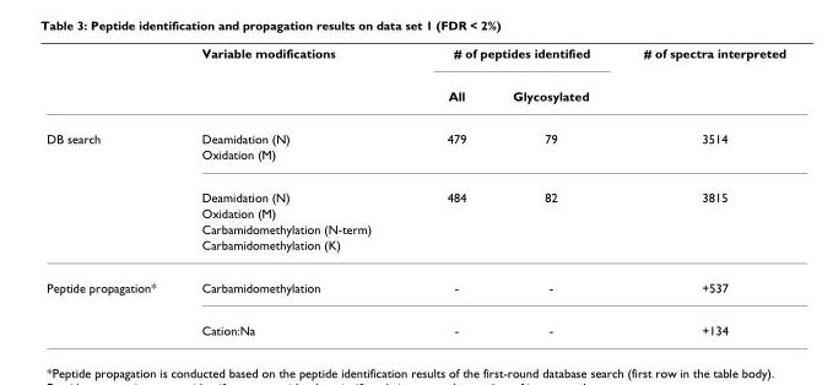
<table><thead><tr><td rowspan="2"></td><td rowspan="2">Variable modifications</td><td colspan="2"># of peptides identified</td><td rowspan="2"># of spectra interpreted</td></tr><tr><td>All</td><td>Glycosylated</td></tr></thead><tbody><tr><td rowspan="6">DB search</td><td>Deamidation (N)</td><td>479</td><td>79</td><td>3514</td></tr><tr><td>Oxidation (M)</td><td></td><td></td><td></td></tr><tr><td>Deamidation (N)</td><td>484</td><td>82</td><td>3815</td></tr><tr><td>Oxidation (M)</td><td></td><td></td><td></td></tr><tr><td>Carbamidomethylation (N-term)</td><td></td><td></td><td></td></tr><tr><td>Carbamidomethylation (K)</td><td></td><td></td><td></td></tr><tr><td rowspan="2">Peptide propagation*</td><td>Carbamidomethylation</td><td>-</td><td>-</td><td>+537</td></tr><tr><td>Cation:Na</td><td>-</td><td>-</td><td>+134</td></tr></tbody></table>